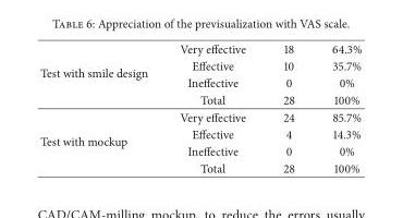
<table><tbody><tr><td rowspan="4">Test with smile design</td><td>Very effective</td><td>18</td><td>64.3%</td></tr><tr><td>Effective</td><td>10</td><td>35.7%</td></tr><tr><td>Ineffective</td><td>0</td><td>0%</td></tr><tr><td>Total</td><td>28</td><td>100%</td></tr><tr><td rowspan="4">Test with mockup</td><td>Very effective</td><td>24</td><td>85.7%</td></tr><tr><td>Effective</td><td>4</td><td>14.3%</td></tr><tr><td>Ineffective</td><td>0</td><td>0%</td></tr><tr><td>Total</td><td>28</td><td>100%</td></tr></tbody></table>